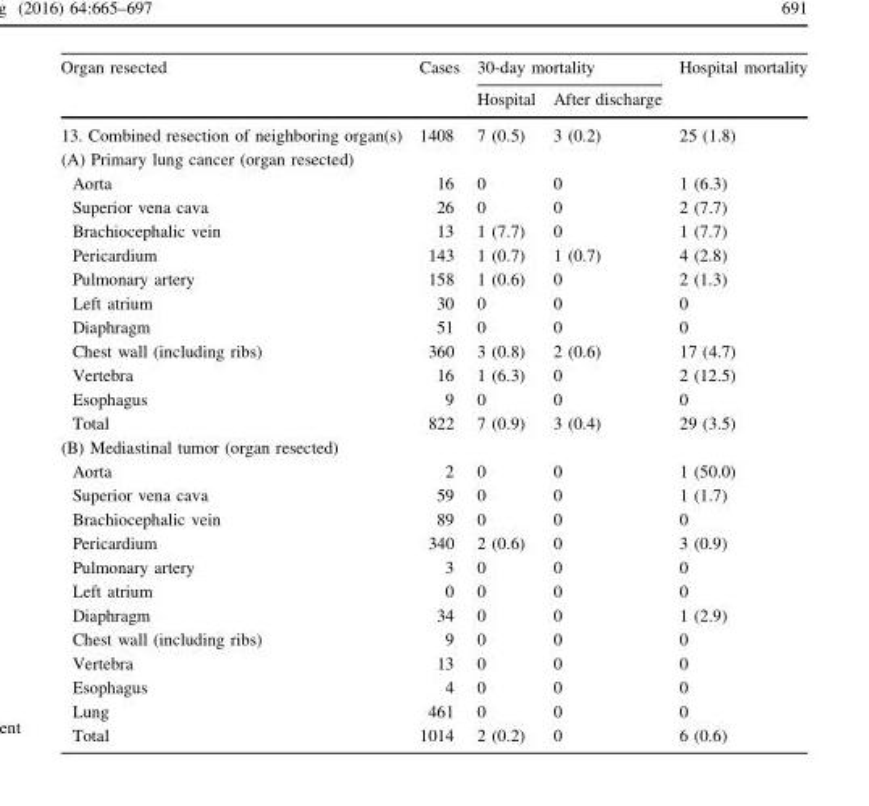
<table><thead><tr><td rowspan="2">Organ resected</td><td rowspan="2">Cases</td><td colspan="2">30-day mortality</td><td rowspan="2">Hospital mortality</td></tr><tr><td>Hospital</td><td>After discharge</td></tr></thead><tbody><tr><td>13. Combined resection of neighboring organ(s)</td><td>1408</td><td>7 (0.5)</td><td>3 (0.2)</td><td>25 (1.8)</td></tr><tr><td colspan="5">(A) Primary lung cancer (organ resected)</td></tr><tr><td>Aorta</td><td>16</td><td>0</td><td>0</td><td>1 (6.3)</td></tr><tr><td>Superior vena cava</td><td>26</td><td>0</td><td>0</td><td>2 (7.7)</td></tr><tr><td>Brachiocephalic vein</td><td>13</td><td>1 (7.7)</td><td>0</td><td>1 (7.7)</td></tr><tr><td>Pericardium</td><td>143</td><td>1 (0.7)</td><td>1 (0.7)</td><td>4 (2.8)</td></tr><tr><td>Pulmonary artery</td><td>158</td><td>1 (0.6)</td><td>0</td><td>2 (1.3)</td></tr><tr><td>Left atrium</td><td>30</td><td>0</td><td>0</td><td>0</td></tr><tr><td>Diaphragm</td><td>51</td><td>0</td><td>0</td><td>0</td></tr><tr><td>Chest wall (including ribs)</td><td>360</td><td>3 (0.8)</td><td>2 (0.6)</td><td>17 (4.7)</td></tr><tr><td>Vertebra</td><td>16</td><td>1 (6.3)</td><td>0</td><td>2 (12.5)</td></tr><tr><td>Esophagus</td><td>9</td><td>0</td><td>0</td><td>0</td></tr><tr><td>Total</td><td>822</td><td>7 (0.9)</td><td>3 (0.4)</td><td>29 (3.5)</td></tr><tr><td colspan="5">(B) Mediastinal tumor (organ resected)</td></tr><tr><td>Aorta</td><td>2</td><td>0</td><td>0</td><td>1 (50.0)</td></tr><tr><td>Superior vena cava</td><td>59</td><td>0</td><td>0</td><td>1 (1.7)</td></tr><tr><td>Brachiocephalic vein</td><td>89</td><td>0</td><td>0</td><td>0</td></tr><tr><td>Pericardium</td><td>340</td><td>2 (0.6)</td><td>0</td><td>3 (0.9)</td></tr><tr><td>Pulmonary artery</td><td>3</td><td>0</td><td>0</td><td>0</td></tr><tr><td>Left atrium</td><td>0</td><td>0</td><td>0</td><td>0</td></tr><tr><td>Diaphragm</td><td>34</td><td>0</td><td>0</td><td>1 (2.9)</td></tr><tr><td>Chest wall (including ribs)</td><td>9</td><td>0</td><td>0</td><td>0</td></tr><tr><td>Vertebra</td><td>13</td><td>0</td><td>0</td><td>0</td></tr><tr><td>Esophagus</td><td>4</td><td>0</td><td>0</td><td>0</td></tr><tr><td>Lung</td><td>461</td><td>0</td><td>0</td><td>0</td></tr><tr><td>Total</td><td>1014</td><td>2 (0.2)</td><td>0</td><td>6 (0.6)</td></tr></tbody></table>